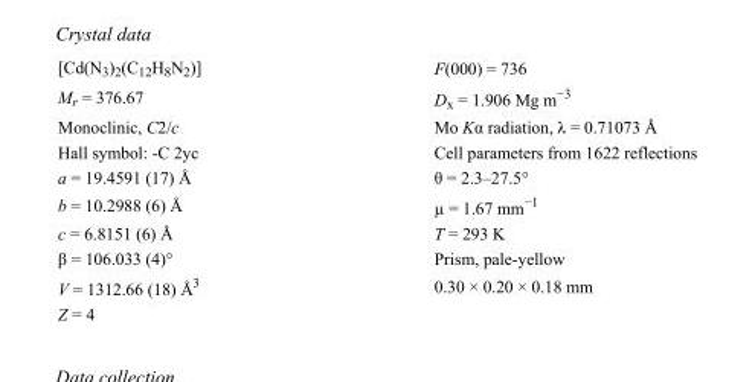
<table><tbody><tr><td>[Cd(N<sub>3</sub>)<sub>2</sub>(C<sub>12</sub>H<sub>8</sub>N<sub>2</sub>)]</td><td>F(000) = 736</td></tr><tr><td>M<sub>r</sub> = 376.67</td><td>D<sub>x</sub> = 1.906 Mg m<sup>−3</sup></td></tr><tr><td>Monoclinic, C2/c</td><td>Mo Kα radiation, λ = 0.71073 Å</td></tr><tr><td>Hall symbol: -C 2yc</td><td>Cell parameters from 1622 reflections</td></tr><tr><td>a = 19.4591 (17) Å</td><td>θ = 2.3–27.5°</td></tr><tr><td>b = 10.2988 (6) Å</td><td>µ = 1.67 mm<sup>−1</sup></td></tr><tr><td>c = 6.8151 (6) Å</td><td>T = 293 K</td></tr><tr><td>β = 106.033 (4)°</td><td>Prism, pale-yellow</td></tr><tr><td>V = 1312.66 (18) Å<sup>3</sup></td><td>0.30 × 0.20 × 0.18 mm</td></tr><tr><td>Z = 4</td><td></td></tr></tbody></table>